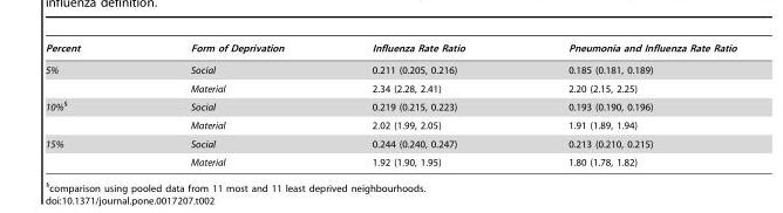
<table><thead><tr><td>Percent</td><td>Form of Deprivation</td><td>Influenza Rate Ratio</td><td>Pneumonia and Influenza Rate Ratio</td></tr></thead><tbody><tr><td rowspan="2">5%</td><td>Social</td><td>0.211 (0.205, 0.216)</td><td>0.185 (0.181, 0.189)</td></tr><tr><td>Material</td><td>2.34 (2.28, 2.41)</td><td>2.20 (2.15, 2.25)</td></tr><tr><td rowspan="2">10%§</td><td>Social</td><td>0.219 (0.215, 0.223)</td><td>0.193 (0.190, 0.196)</td></tr><tr><td>Material</td><td>2.02 (1.99, 2.05)</td><td>1.91 (1.89, 1.94)</td></tr><tr><td rowspan="2">15%</td><td>Social</td><td>0.244 (0.240, 0.247)</td><td>0.213 (0.210, 0.215)</td></tr><tr><td>Material</td><td>1.92 (1.90, 1.95)</td><td>1.80 (1.78, 1.82)</td></tr></tbody></table>